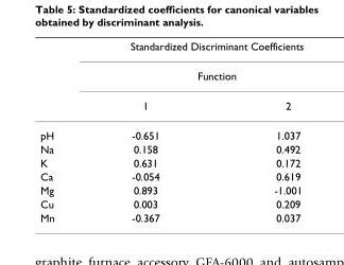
<table><thead><tr><td rowspan="3"></td><td rowspan="2" colspan="2">Standardized Discriminant Coefficients Function</td></tr><tr></tr><tr><td>1</td><td>2</td></tr></thead><tbody><tr><td>pH</td><td>-0.651</td><td>1.037</td></tr><tr><td>Na</td><td>0.158</td><td>0.492</td></tr><tr><td>K</td><td>0.631</td><td>0.172</td></tr><tr><td>Ca</td><td>-0.054</td><td>0.619</td></tr><tr><td>Mg</td><td>0.893</td><td>-1.001</td></tr><tr><td>Cu</td><td>0.003</td><td>0.209</td></tr><tr><td>Mn</td><td>-0.367</td><td>0.037</td></tr></tbody></table>